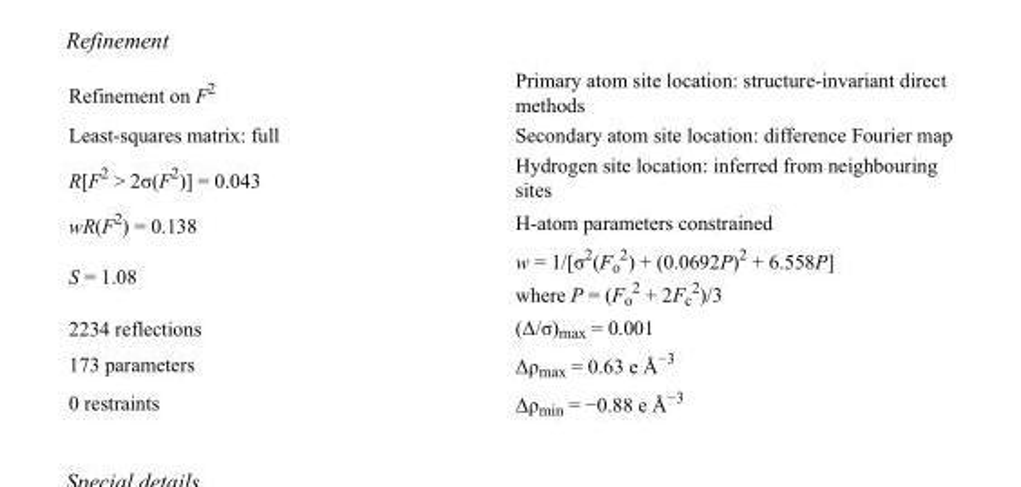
<table><tbody><tr><td>Refinement on F<sup>2</sup></td><td>Primary atom site location: structure-invariant direct methods</td></tr><tr><td>Least-squares matrix: full</td><td>Secondary atom site location: difference Fourier map</td></tr><tr><td>R[F<sup>2</sup> &gt; 2σ(F<sup>2</sup>)] = 0.043</td><td>Hydrogen site location: inferred from neighbouring sites</td></tr><tr><td>wR(F<sup>2</sup>) = 0.138</td><td>H-atom parameters constrained</td></tr><tr><td>S = 1.08</td><td>w = 1/[σ<sup>2</sup>(F<sub>o</sub> <sup>2</sup>) + (0.0692P)<sup>2</sup> + 6.558P] where P = (F<sub>o</sub> <sup>2</sup> + 2F<sub>c</sub> <sup>2</sup>)/3</td></tr><tr><td>2234 reflections</td><td>(Δ/σ)<sub>max</sub> = 0.001</td></tr><tr><td>173 parameters</td><td>Δρ<sub>max</sub> = 0.63 e Å<sup>−3</sup></td></tr><tr><td>0 restraints</td><td>Δρ<sub>min</sub> = −0.88 e Å<sup>−3</sup></td></tr></tbody></table>